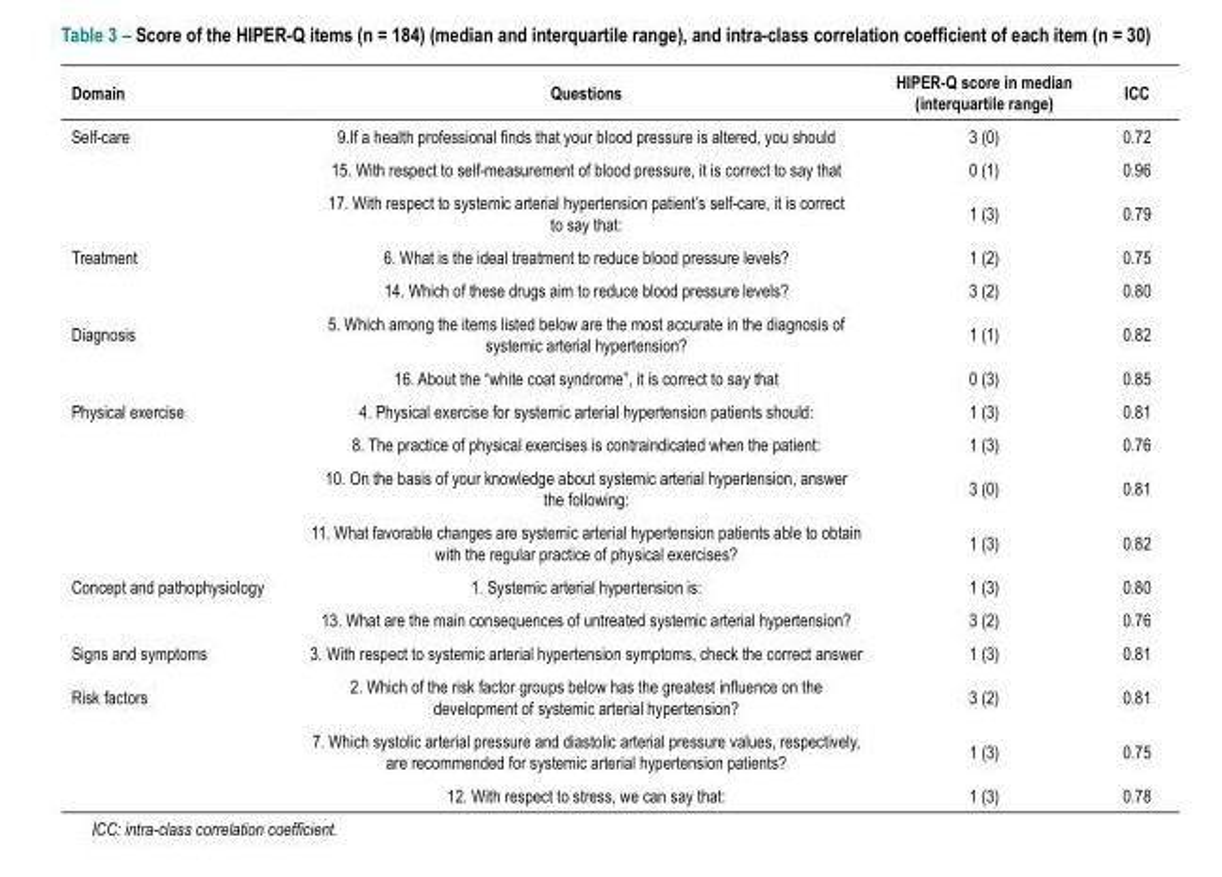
<table><thead><tr><td>Domain</td><td>Questions</td><td>HIPER-Q score in median (interquartile range)</td><td>ICC</td></tr></thead><tbody><tr><td rowspan="3">Self-care</td><td>9.If a health professional finds that your blood pressure is altered, you should</td><td>3 (0)</td><td>0.72</td></tr><tr><td>15. With respect to self-measurement of blood pressure, it is correct to say that</td><td>0 (1)</td><td>0.96</td></tr><tr><td>17. With respect to systemic arterial hypertension patient’s self-care, it is correct to say that:</td><td>1 (3)</td><td>0.79</td></tr><tr><td rowspan="2">Treatment</td><td>6. What is the ideal treatment to reduce blood pressure levels?</td><td>1 (2)</td><td>0.75</td></tr><tr><td>14. Which of these drugs aim to reduce blood pressure levels?</td><td>3 (2)</td><td>0.80</td></tr><tr><td rowspan="2">Diagnosis</td><td>5. Which among the items listed below are the most accurate in the diagnosis of systemic arterial hypertension?</td><td>1 (1)</td><td>0.82</td></tr><tr><td>16. About the “white coat syndrome”, it is correct to say that</td><td>0 (3)</td><td>0.85</td></tr><tr><td rowspan="4">Physical exercise</td><td>4. Physical exercise for systemic arterial hypertension patients should:</td><td>1 (3)</td><td>0.81</td></tr><tr><td>8. The practice of physical exercises is contraindicated when the patient:</td><td>1 (3)</td><td>0.76</td></tr><tr><td>10. On the basis of your knowledge about systemic arterial hypertension, answer the following:</td><td>3 (0)</td><td>0.81</td></tr><tr><td>11. What favorable changes are systemic arterial hypertension patients able to obtain with the regular practice of physical exercises?</td><td>1 (3)</td><td>0.82</td></tr><tr><td rowspan="2">Concept and pathophysiology</td><td>1. Systemic arterial hypertension is:</td><td>1 (3)</td><td>0.80</td></tr><tr><td>13. What are the main consequences of untreated systemic arterial hypertension?</td><td>3 (2)</td><td>0.76</td></tr><tr><td>Signs and symptoms</td><td>3. With respect to systemic arterial hypertension symptoms, check the correct answer</td><td>1 (3)</td><td>0.81</td></tr><tr><td rowspan="3">Risk factors</td><td>2. Which of the risk factor groups below has the greatest influence on the development of systemic arterial hypertension?</td><td>3 (2)</td><td>0.81</td></tr><tr><td>7. Which systolic arterial pressure and diastolic arterial pressure values, respectively, are recommended for systemic arterial hypertension patients?</td><td>1 (3)</td><td>0.75</td></tr><tr><td>12. With respect to stress, we can say that:</td><td>1 (3)</td><td>0.78</td></tr></tbody></table>